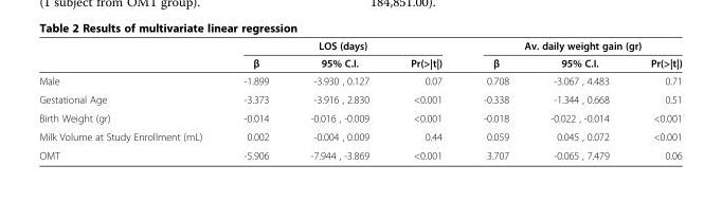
<table><thead><tr><td rowspan="2"></td><td colspan="3">LOS (days)</td><td colspan="3">Av. daily weight gain (gr)</td></tr><tr><td>β</td><td>95% C.I.</td><td>Pr(&gt;|t|)</td><td>β</td><td>95% C.I.</td><td>Pr(&gt;|t|)</td></tr></thead><tbody><tr><td>Male</td><td>-1.899</td><td>-3.930 , 0.127</td><td>0.07</td><td>0.708</td><td>-3.067 , 4.483</td><td>0.71</td></tr><tr><td>Gestational Age</td><td>-3.373</td><td>-3.916 , 2.830</td><td>&lt;0.001</td><td>-0.338</td><td>-1.344 , 0.668</td><td>0.51</td></tr><tr><td>Birth Weight (gr)</td><td>-0.014</td><td>-0.016 , -0.009</td><td>&lt;0.001</td><td>-0.018</td><td>-0.022 , -0.014</td><td>&lt;0.001</td></tr><tr><td>Milk Volume at Study Enrollment (mL)</td><td>0.002</td><td>-0.004 , 0.009</td><td>0.44</td><td>0.059</td><td>0.045 , 0.072</td><td>&lt;0.001</td></tr><tr><td>OMT</td><td>-5.906</td><td>-7.944 , -3.869</td><td>&lt;0.001</td><td>3.707</td><td>-0.065 , 7.479</td><td>0.06</td></tr></tbody></table>